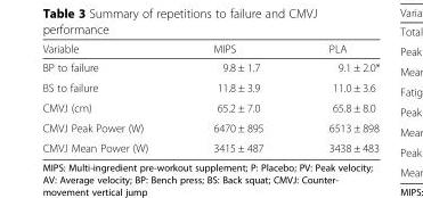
<table><thead><tr><td>Variable</td><td>MIPS</td><td>PLA</td></tr></thead><tbody><tr><td>BP to failure</td><td>9.8 ± 1.7</td><td>9.1 ± 2.0*</td></tr><tr><td>BS to failure</td><td>11.8 ± 3.9</td><td>11.0 ± 3.6</td></tr><tr><td>CMVJ (cm)</td><td>65.2 ± 7.0</td><td>65.8 ± 8.0</td></tr><tr><td>CMVJ Peak Power (W)</td><td>6470 ± 895</td><td>6513 ± 898</td></tr><tr><td>CMVJ Mean Power (W)</td><td>3415 ± 487</td><td>3438 ± 483</td></tr></tbody></table>